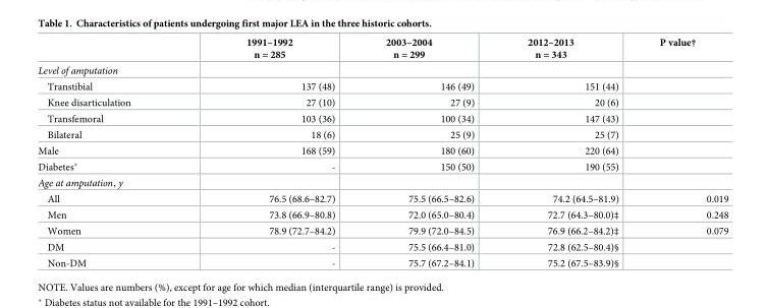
<table><thead><tr><td></td><td>1991–1992 n = 285</td><td>2003–2004 n = 299</td><td>2012–2013 n = 343</td><td>P value†</td></tr></thead><tbody><tr><td colspan="5">Level of amputation</td></tr><tr><td>Transtibial</td><td>137 (48)</td><td>146 (49)</td><td>151 (44)</td><td></td></tr><tr><td>Knee disarticulation</td><td>27 (10)</td><td>27 (9)</td><td>20 (6)</td><td></td></tr><tr><td>Transfemoral</td><td>103 (36)</td><td>100 (34)</td><td>147 (43)</td><td></td></tr><tr><td>Bilateral</td><td>18 (6)</td><td>25 (9)</td><td>25 (7)</td><td></td></tr><tr><td>Male</td><td>168 (59)</td><td>180 (60)</td><td>220 (64)</td><td></td></tr><tr><td>Diabetes*</td><td>-</td><td>150 (50)</td><td>190 (55)</td><td></td></tr><tr><td colspan="5">Age at amputation, y</td></tr><tr><td>All</td><td>76.5 (68.6–82.7)</td><td>75.5 (66.5–82.6)</td><td>74.2 (64.5–81.9)</td><td>0.019</td></tr><tr><td>Men</td><td>73.8 (66.9–80.8)</td><td>72.0 (65.0–80.4)</td><td>72.7 (64.3–80.0)‡</td><td>0.248</td></tr><tr><td>Women</td><td>78.9 (72.7–84.2)</td><td>79.9 (72.0–84.5)</td><td>76.9 (66.2–84.2)‡</td><td>0.079</td></tr><tr><td>DM</td><td>-</td><td>75.5 (66.4–81.0)</td><td>72.8 (62.5–80.4)§</td><td></td></tr><tr><td>Non-DM</td><td>-</td><td>75.7 (67.2–84.1)</td><td>75.2 (67.5–83.9)§</td><td></td></tr></tbody></table>